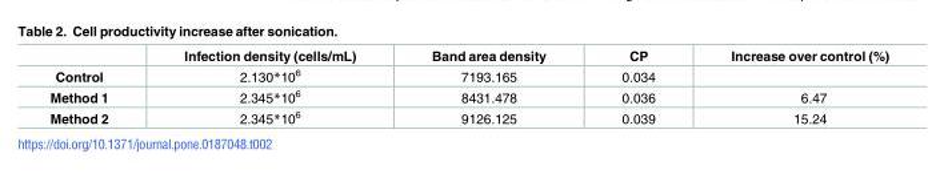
<table><thead><tr><td></td><td>Infection density (cells/mL)</td><td>Band area density</td><td>CP</td><td>Increase over control (%)</td></tr></thead><tbody><tr><td>Control</td><td>2.130*10<sup>6</sup></td><td>7193.165</td><td>0.034</td><td></td></tr><tr><td>Method 1</td><td>2.345*10<sup>6</sup></td><td>8431.478</td><td>0.036</td><td>6.47</td></tr><tr><td>Method 2</td><td>2.345*10<sup>6</sup></td><td>9126.125</td><td>0.039</td><td>15.24</td></tr></tbody></table>